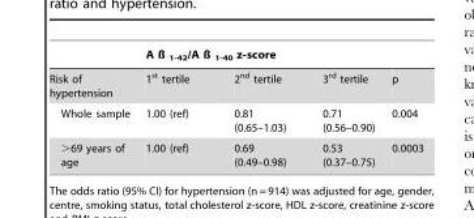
<table><thead><tr><td rowspan="2">Risk of hypertension</td><td colspan="3">A ß <sub>1-42</sub>/A ß <sub>1-40</sub> z-score</td><td rowspan="2">p</td></tr><tr><td>1<sup>st</sup> tertile</td><td>2<sup>nd</sup> tertile</td><td>3<sup>rd</sup> tertile</td></tr></thead><tbody><tr><td>Whole sample</td><td>1.00 (ref)</td><td>0.81 (0.65–1.03)</td><td>0.71 (0.56–0.90)</td><td>0.004</td></tr><tr><td>&gt;69 years of age</td><td>1.00 (ref)</td><td>0.69 (0.49–0.98)</td><td>0.53 (0.37–0.75)</td><td>0.0003</td></tr></tbody></table>